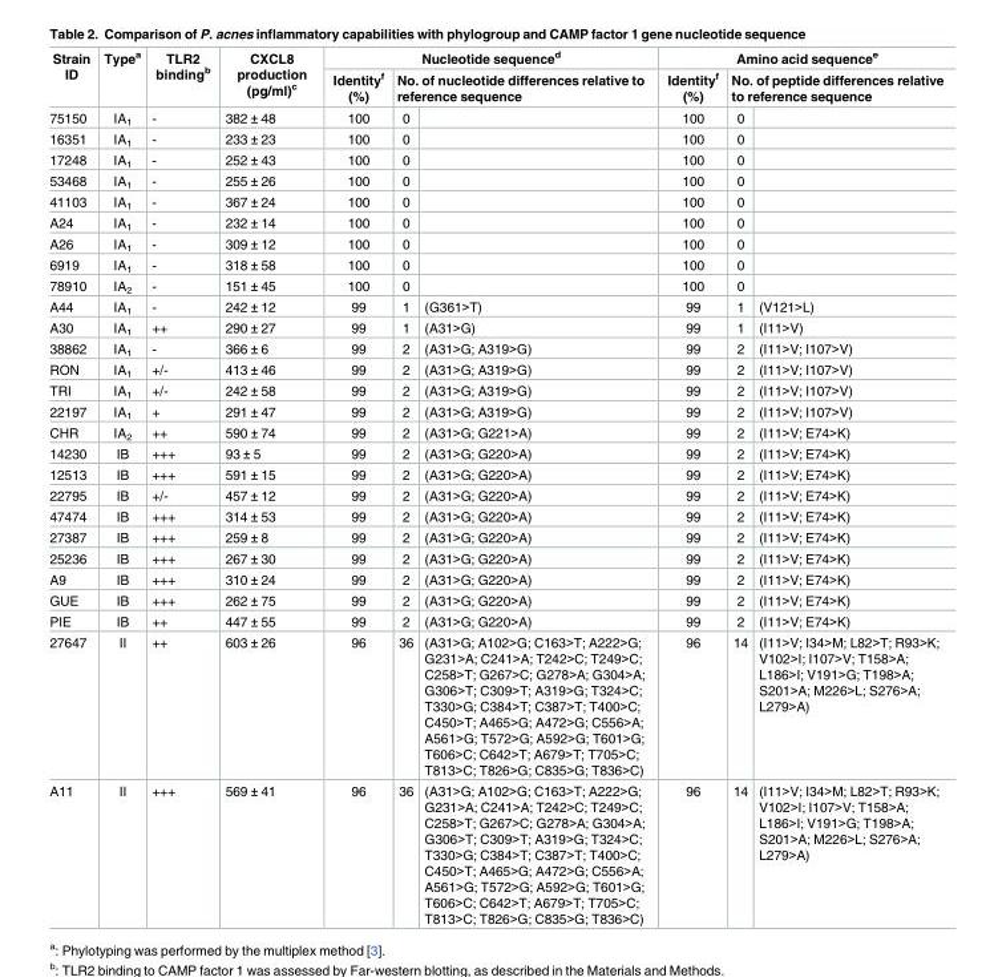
<table><thead><tr><td rowspan="3">Strain ID 75150</td><td rowspan="3">Type<sup>a</sup> IA<sub>1</sub></td><td rowspan="3">TLR2 binding<sup>b</sup> -</td><td rowspan="3">CXCL8 production (pg/ml)<sup>c</sup> 382 ± 48</td><td colspan="3">Nucleotide sequence<sup>d</sup></td><td colspan="3">Amino acid sequence<sup>e</sup></td></tr><tr><td rowspan="2">Identity<sup>f</sup> (%) 100</td><td colspan="2">No. of nucleotide differences relative to reference sequence</td><td rowspan="2">Identity<sup>f</sup> (%) 100</td><td colspan="2">No. of peptide differences relative to reference sequence</td></tr><tr><td>0</td><td></td><td>0</td><td></td></tr></thead><tbody><tr><td>16351</td><td>IA<sub>1</sub></td><td>-</td><td>233 ± 23</td><td>100</td><td>0</td><td></td><td>100</td><td>0</td><td></td></tr><tr><td>17248</td><td>IA<sub>1</sub></td><td>-</td><td>252 ± 43</td><td>100</td><td>0</td><td></td><td>100</td><td>0</td><td></td></tr><tr><td>53468</td><td>IA<sub>1</sub></td><td>-</td><td>255 ± 26</td><td>100</td><td>0</td><td></td><td>100</td><td>0</td><td></td></tr><tr><td>41103</td><td>IA<sub>1</sub></td><td>-</td><td>367 ± 24</td><td>100</td><td>0</td><td></td><td>100</td><td>0</td><td></td></tr><tr><td>A24</td><td>IA<sub>1</sub></td><td>-</td><td>232 ± 14</td><td>100</td><td>0</td><td></td><td>100</td><td>0</td><td></td></tr><tr><td>A26</td><td>IA<sub>1</sub></td><td>-</td><td>309 ± 12</td><td>100</td><td>0</td><td></td><td>100</td><td>0</td><td></td></tr><tr><td>6919</td><td>IA<sub>1</sub></td><td>-</td><td>318 ± 58</td><td>100</td><td>0</td><td></td><td>100</td><td>0</td><td></td></tr><tr><td>78910</td><td>IA<sub>2</sub></td><td>-</td><td>151 ± 45</td><td>100</td><td>0</td><td></td><td>100</td><td>0</td><td></td></tr><tr><td>A44</td><td>IA<sub>1</sub></td><td>-</td><td>242 ± 12</td><td>99</td><td>1</td><td>(G361&gt;T)</td><td>99</td><td>1</td><td>(V121&gt;L)</td></tr><tr><td>A30</td><td>IA<sub>1</sub></td><td>++</td><td>290 ± 27</td><td>99</td><td>1</td><td>(A31&gt;G)</td><td>99</td><td>1</td><td>(I11&gt;V)</td></tr><tr><td>38862</td><td>IA<sub>1</sub></td><td>-</td><td>366 ± 6</td><td>99</td><td>2</td><td>(A31&gt;G; A319&gt;G)</td><td>99</td><td>2</td><td>(I11&gt;V; I107&gt;V)</td></tr><tr><td>RON</td><td>IA<sub>1</sub></td><td>+/-</td><td>413 ± 46</td><td>99</td><td>2</td><td>(A31&gt;G; A319&gt;G)</td><td>99</td><td>2</td><td>(I11&gt;V; I107&gt;V)</td></tr><tr><td>TRI</td><td>IA<sub>1</sub></td><td>+/-</td><td>242 ± 58</td><td>99</td><td>2</td><td>(A31&gt;G; A319&gt;G)</td><td>99</td><td>2</td><td>(I11&gt;V; I107&gt;V)</td></tr><tr><td>22197</td><td>IA<sub>1</sub></td><td>+</td><td>291 ± 47</td><td>99</td><td>2</td><td>(A31&gt;G; A319&gt;G)</td><td>99</td><td>2</td><td>(I11&gt;V; I107&gt;V)</td></tr><tr><td>CHR</td><td>IA<sub>2</sub></td><td>++</td><td>590 ± 74</td><td>99</td><td>2</td><td>(A31&gt;G; G221&gt;A)</td><td>99</td><td>2</td><td>(I11&gt;V; E74&gt;K)</td></tr><tr><td>14230</td><td>IB</td><td>+++</td><td>93 ± 5</td><td>99</td><td>2</td><td>(A31&gt;G; G220&gt;A)</td><td>99</td><td>2</td><td>(I11&gt;V; E74&gt;K)</td></tr><tr><td>12513</td><td>IB</td><td>+++</td><td>591 ± 15</td><td>99</td><td>2</td><td>(A31&gt;G; G220&gt;A)</td><td>99</td><td>2</td><td>(I11&gt;V; E74&gt;K)</td></tr><tr><td>22795</td><td>IB</td><td>+/-</td><td>457 ± 12</td><td>99</td><td>2</td><td>(A31&gt;G; G220&gt;A)</td><td>99</td><td>2</td><td>(I11&gt;V; E74&gt;K)</td></tr><tr><td>47474</td><td>IB</td><td>+++</td><td>314 ± 53</td><td>99</td><td>2</td><td>(A31&gt;G; G220&gt;A)</td><td>99</td><td>2</td><td>(I11&gt;V; E74&gt;K)</td></tr><tr><td>27387</td><td>IB</td><td>+++</td><td>259 ± 8</td><td>99</td><td>2</td><td>(A31&gt;G; G220&gt;A)</td><td>99</td><td>2</td><td>(I11&gt;V; E74&gt;K)</td></tr><tr><td>25236</td><td>IB</td><td>+++</td><td>267 ± 30</td><td>99</td><td>2</td><td>(A31&gt;G; G220&gt;A)</td><td>99</td><td>2</td><td>(I11&gt;V; E74&gt;K)</td></tr><tr><td>A9</td><td>IB</td><td>+++</td><td>310 ± 24</td><td>99</td><td>2</td><td>(A31&gt;G; G220&gt;A)</td><td>99</td><td>2</td><td>(I11&gt;V; E74&gt;K)</td></tr><tr><td>GUE</td><td>IB</td><td>+++</td><td>262 ± 75</td><td>99</td><td>2</td><td>(A31&gt;G; G220&gt;A)</td><td>99</td><td>2</td><td>(I11&gt;V; E74&gt;K)</td></tr><tr><td>PIE</td><td>IB</td><td>++</td><td>447 ± 55</td><td>99</td><td>2</td><td>(A31&gt;G; G220&gt;A)</td><td>99</td><td>2</td><td>(I11&gt;V; E74&gt;K)</td></tr><tr><td>27647</td><td>II</td><td>++</td><td>603 ± 26</td><td>96</td><td>36</td><td>(A31&gt;G; A102&gt;G; C163&gt;T; A222&gt;G; G231&gt;A; C241&gt;A; T242&gt;C; T249&gt;C; C258&gt;T; G267&gt;C; G278&gt;A; G304&gt;A; G306&gt;T; C309&gt;T; A319&gt;G; T324&gt;C; T330&gt;G; C384&gt;T; C387&gt;T; T400&gt;C; C450&gt;T; A465&gt;G; A472&gt;G; C556&gt;A; A561&gt;G; T572&gt;G; A592&gt;G; T601&gt;G; T606&gt;C; C642&gt;T; A679&gt;T; T705&gt;C; T813&gt;C; T826&gt;G; C835&gt;G; T836&gt;C)</td><td>96</td><td>14</td><td>(I11&gt;V; I34&gt;M; L82&gt;T; R93&gt;K; V102&gt;I; I107&gt;V; T158&gt;A; L186&gt;I; V191&gt;G; T198&gt;A; S201&gt;A; M226&gt;L; S276&gt;A; L279&gt;A)</td></tr><tr><td>A11</td><td>II</td><td>+++</td><td>569 ± 41</td><td>96</td><td>36</td><td>(A31&gt;G; A102&gt;G; C163&gt;T; A222&gt;G; G231&gt;A; C241&gt;A; T242&gt;C; T249&gt;C; C258&gt;T; G267&gt;C; G278&gt;A; G304&gt;A; G306&gt;T; C309&gt;T; A319&gt;G; T324&gt;C; T330&gt;G; C384&gt;T; C387&gt;T; T400&gt;C; C450&gt;T; A465&gt;G; A472&gt;G; C556&gt;A; A561&gt;G; T572&gt;G; A592&gt;G; T601&gt;G; T606&gt;C; C642&gt;T; A679&gt;T; T705&gt;C; T813&gt;C; T826&gt;G; C835&gt;G; T836&gt;C)</td><td>96</td><td>14</td><td>(I11&gt;V; I34&gt;M; L82&gt;T; R93&gt;K; V102&gt;I; I107&gt;V; T158&gt;A; L186&gt;I; V191&gt;G; T198&gt;A; S201&gt;A; M226&gt;L; S276&gt;A; L279&gt;A)</td></tr></tbody></table>